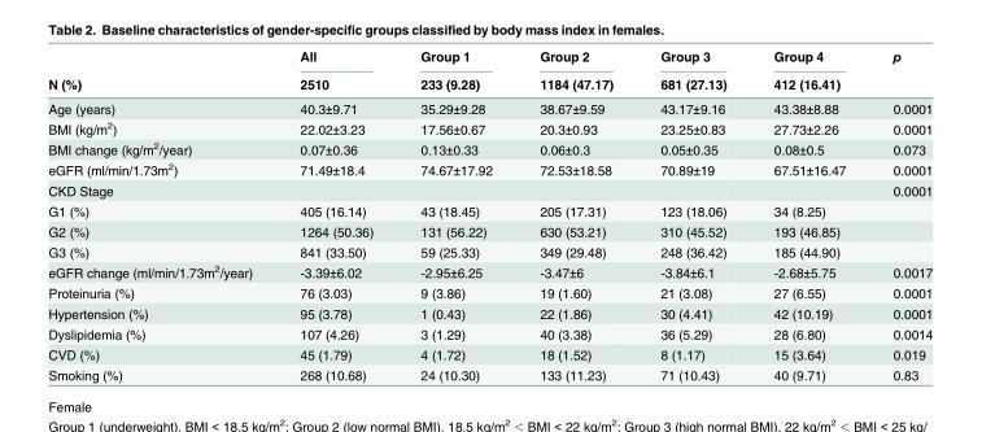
<table><thead><tr><td rowspan="2">N (%)</td><td rowspan="2">All 2510</td><td rowspan="2">Group 1 233 (9.28)</td><td rowspan="2">Group 2 1184 (47.17)</td><td rowspan="2">Group 3 681 (27.13)</td><td rowspan="2">Group 4 412 (16.41)</td><td rowspan="2">p</td></tr><tr></tr></thead><tbody><tr><td>Age (years)</td><td>40.3±9.71</td><td>35.29±9.28</td><td>38.67±9.59</td><td>43.17±9.16</td><td>43.38±8.88</td><td>0.0001</td></tr><tr><td>BMI (kg/m<sup>2</sup>)</td><td>22.02±3.23</td><td>17.56±0.67</td><td>20.3±0.93</td><td>23.25±0.83</td><td>27.73±2.26</td><td>0.0001</td></tr><tr><td>BMI change (kg/m<sup>2</sup>/year)</td><td>0.07±0.36</td><td>0.13±0.33</td><td>0.06±0.3</td><td>0.05±0.35</td><td>0.08±0.5</td><td>0.073</td></tr><tr><td>eGFR (ml/min/1.73m<sup>2</sup>)</td><td>71.49±18.4</td><td>74.67±17.92</td><td>72.53±18.58</td><td>70.89±19</td><td>67.51±16.47</td><td>0.0001</td></tr><tr><td>CKD Stage</td><td></td><td></td><td></td><td></td><td></td><td>0.0001</td></tr><tr><td>G1 (%)</td><td>405 (16.14)</td><td>43 (18.45)</td><td>205 (17.31)</td><td>123 (18.06)</td><td>34 (8.25)</td><td></td></tr><tr><td>G2 (%)</td><td>1264 (50.36)</td><td>131 (56.22)</td><td>630 (53.21)</td><td>310 (45.52)</td><td>193 (46.85)</td><td></td></tr><tr><td>G3 (%)</td><td>841 (33.50)</td><td>59 (25.33)</td><td>349 (29.48)</td><td>248 (36.42)</td><td>185 (44.90)</td><td></td></tr><tr><td>eGFR change (ml/min/1.73m<sup>2</sup>/year)</td><td>-3.39±6.02</td><td>-2.95±6.25</td><td>-3.47±6</td><td>-3.84±6.1</td><td>-2.68±5.75</td><td>0.0017</td></tr><tr><td>Proteinuria (%)</td><td>76 (3.03)</td><td>9 (3.86)</td><td>19 (1.60)</td><td>21 (3.08)</td><td>27 (6.55)</td><td>0.0001</td></tr><tr><td>Hypertension (%)</td><td>95 (3.78)</td><td>1 (0.43)</td><td>22 (1.86)</td><td>30 (4.41)</td><td>42 (10.19)</td><td>0.0001</td></tr><tr><td>Dyslipidemia (%)</td><td>107 (4.26)</td><td>3 (1.29)</td><td>40 (3.38)</td><td>36 (5.29)</td><td>28 (6.80)</td><td>0.0014</td></tr><tr><td>CVD (%)</td><td>45 (1.79)</td><td>4 (1.72)</td><td>18 (1.52)</td><td>8 (1.17)</td><td>15 (3.64)</td><td>0.019</td></tr><tr><td>Smoking (%)</td><td>268 (10.68)</td><td>24 (10.30)</td><td>133 (11.23)</td><td>71 (10.43)</td><td>40 (9.71)</td><td>0.83</td></tr></tbody></table>